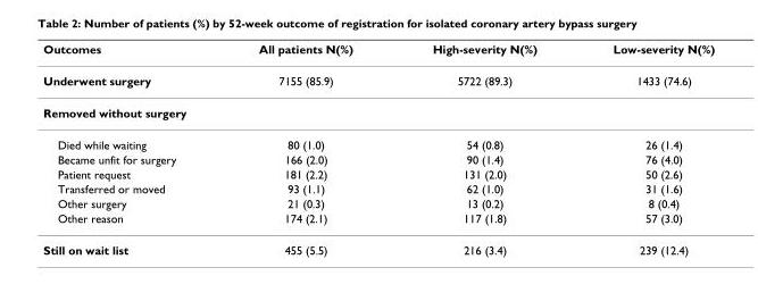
<table><thead><tr><td>Outcomes</td><td>All patients N(%)</td><td>High-severity N(%)</td><td>Low-severity N(%)</td></tr></thead><tbody><tr><td>Underwent surgery</td><td>7155 (85.9)</td><td>5722 (89.3)</td><td>1433 (74.6)</td></tr><tr><td colspan="4">Removed without surgery</td></tr><tr><td>Died while waiting</td><td>80 (1.0)</td><td>54 (0.8)</td><td>26 (1.4)</td></tr><tr><td>Became unfit for surgery</td><td>166 (2.0)</td><td>90 (1.4)</td><td>76 (4.0)</td></tr><tr><td>Patient request</td><td>181 (2.2)</td><td>131 (2.0)</td><td>50 (2.6)</td></tr><tr><td>Transferred or moved</td><td>93 (1.1)</td><td>62 (1.0)</td><td>31 (1.6)</td></tr><tr><td>Other surgery</td><td>21 (0.3)</td><td>13 (0.2)</td><td>8 (0.4)</td></tr><tr><td>Other reason</td><td>174 (2.1)</td><td>117 (1.8)</td><td>57 (3.0)</td></tr><tr><td>Still on wait list</td><td>455 (5.5)</td><td>216 (3.4)</td><td>239 (12.4)</td></tr></tbody></table>